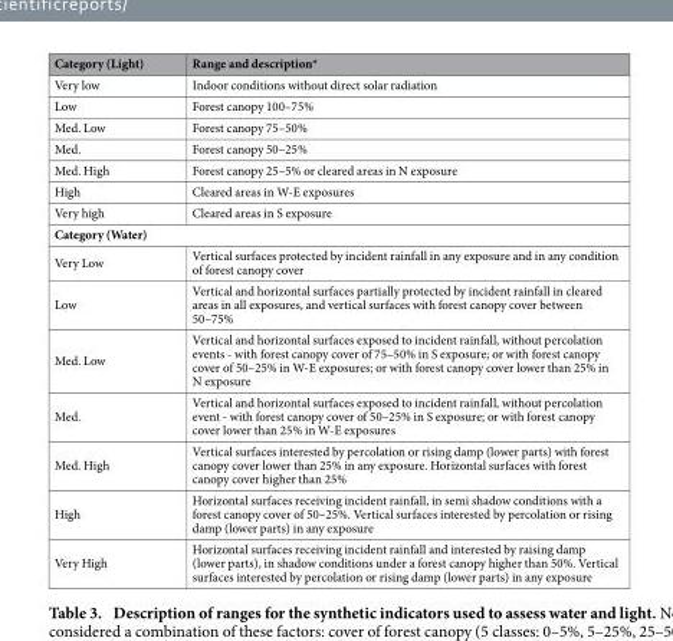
<table><thead><tr><td>Category (Light)</td><td>Range and description*</td></tr></thead><tbody><tr><td>Very low</td><td>Indoor conditions without direct solar radiation</td></tr><tr><td>Low</td><td>Forest canopy 100–75%</td></tr><tr><td>Med. Low</td><td>Forest canopy 75–50%</td></tr><tr><td>Med.</td><td>Forest canopy 50–25%</td></tr><tr><td>Med. High</td><td>Forest canopy 25–5% or cleared areas in N exposure</td></tr><tr><td>High</td><td>Cleared areas in W-E exposures</td></tr><tr><td>Very high</td><td>Cleared areas in S exposure</td></tr><tr><td colspan="2">Category (Water)</td></tr><tr><td>Very Low</td><td>Vertical surfaces protected by incident rainfall in any exposure and in any condition of forest canopy cover</td></tr><tr><td>Low</td><td>Vertical and horizontal surfaces partially protected by incident rainfall in cleared areas in all exposures, and vertical surfaces with forest canopy cover between 50–75%</td></tr><tr><td>Med. Low</td><td>Vertical and horizontal surfaces exposed to incident rainfall, without percolation events - with forest canopy cover of 75–50% in S exposure; or with forest canopy cover of 50–25% in W-E exposures; or with forest canopy cover lower than 25% in N exposure</td></tr><tr><td>Med.</td><td>Vertical and horizontal surfaces exposed to incident rainfall, without percolation event - with forest canopy cover of 50–25% in S exposure; or with forest canopy cover lower than 25% in W-E exposures</td></tr><tr><td>Med. High</td><td>Vertical surfaces interested by percolation or rising damp (lower parts) with forest canopy cover lower than 25% in any exposure. Horizontal surfaces with forest canopy cover higher than 25%</td></tr><tr><td>High</td><td>Horizontal surfaces receiving incident rainfall, in semi shadow conditions with a forest canopy cover of 50–25%. Vertical surfaces interested by percolation or rising damp (lower parts) in any exposure</td></tr><tr><td>Very High</td><td>Horizontal surfaces receiving incident rainfall and interested by raising damp (lower parts), in shadow conditions under a forest canopy higher than 50%. Vertical surfaces interested by percolation or rising damp (lower parts) in any exposure</td></tr></tbody></table>